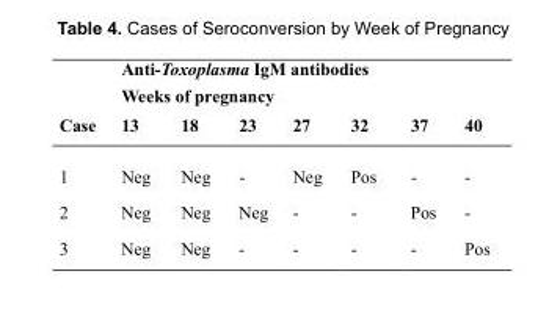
<table><thead><tr><td rowspan="3">Case</td><td rowspan="2" colspan="7">Anti-Toxoplasma IgM antibodies Weeks of pregnancy</td></tr><tr></tr><tr><td>13</td><td>18</td><td>23</td><td>27</td><td>32</td><td>37</td><td>40</td></tr></thead><tbody><tr><td>1</td><td>Neg</td><td>Neg</td><td>-</td><td>Neg</td><td>Pos</td><td>-</td><td>-</td></tr><tr><td>2</td><td>Neg</td><td>Neg</td><td>Neg</td><td>-</td><td>-</td><td>Pos</td><td>-</td></tr><tr><td>3</td><td>Neg</td><td>Neg</td><td>-</td><td>-</td><td>-</td><td>-</td><td>Pos</td></tr></tbody></table>